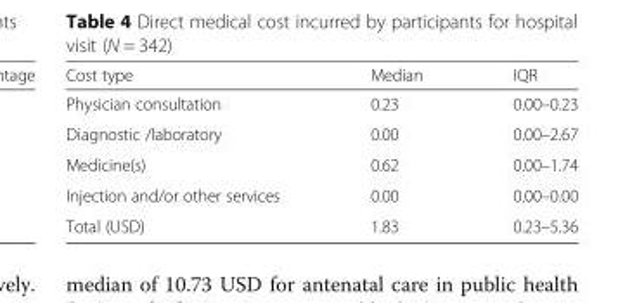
<table><thead><tr><td>Cost type</td><td>Median</td><td>IQR</td></tr></thead><tbody><tr><td>Physician consultation</td><td>0.23</td><td>0.00–0.23</td></tr><tr><td>Diagnostic /laboratory</td><td>0.00</td><td>0.00–2.67</td></tr><tr><td>Medicine(s)</td><td>0.62</td><td>0.00–1.74</td></tr><tr><td>Injection and/or other services</td><td>0.00</td><td>0.00–0.00</td></tr><tr><td>Total (USD)</td><td>1.83</td><td>0.23–5.36</td></tr></tbody></table>